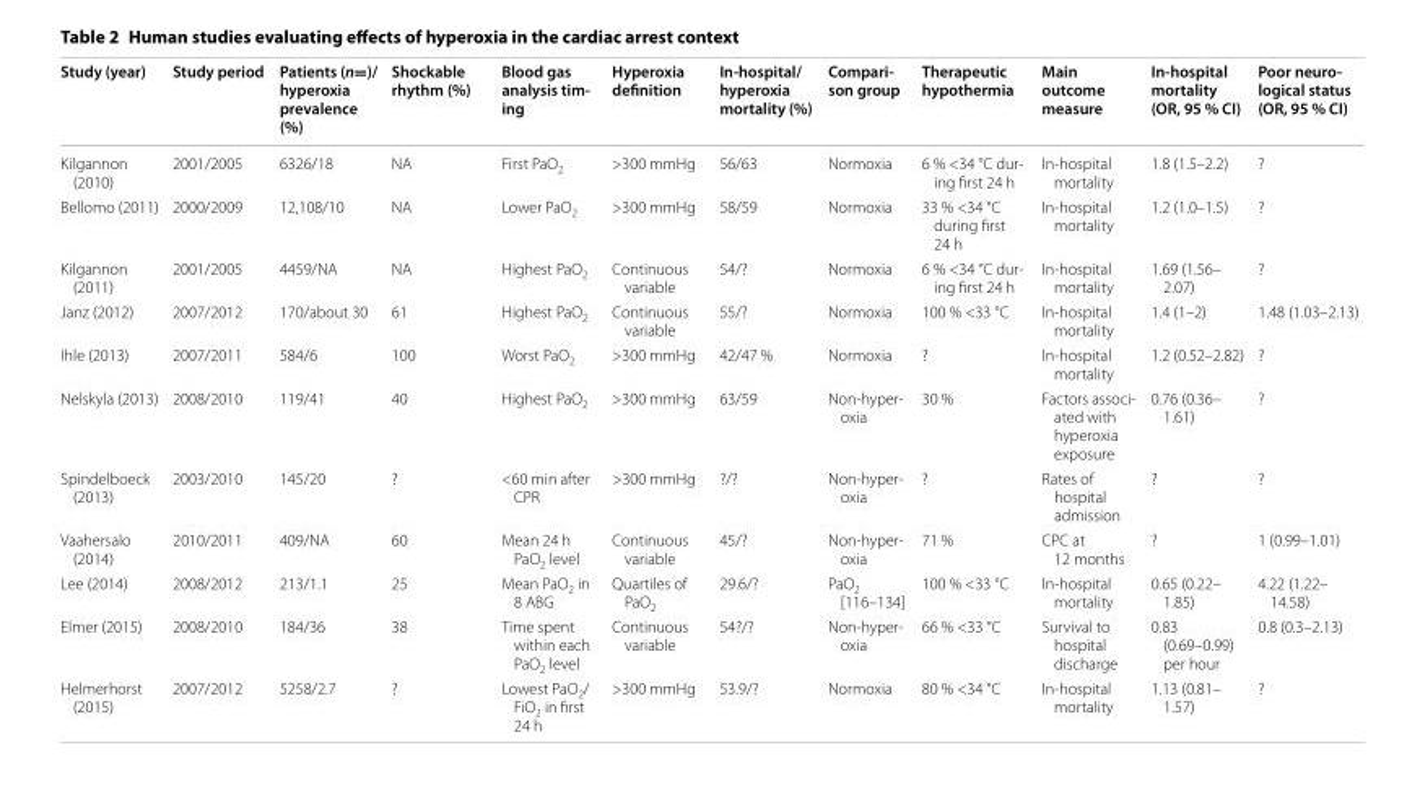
<table><thead><tr><td>Study (year)</td><td>Study period</td><td>Patients (n=)/ hyperoxia prevalence (%)</td><td>Shockable rhythm (%)</td><td>Blood gas analysis tim- ing</td><td>Hyperoxia definition</td><td>In-hospital/ hyperoxia mortality (%)</td><td>Compari- son group</td><td>Therapeutic hypothermia</td><td>Main outcome measure</td><td>In-hospital mortality (OR, 95 % CI)</td><td>Poor neuro- logical status (OR, 95 % CI)</td></tr></thead><tbody><tr><td>Kilgannon (2010)</td><td>2001/2005</td><td>6326/18</td><td>NA</td><td>First PaO<sub>2</sub></td><td>&gt;300 mmHg</td><td>56/63</td><td>Normoxia</td><td>6 % &lt;34 °C dur‑ ing first 24 h</td><td>In‑hospital mortality</td><td>1.8 (1.5–2.2)</td><td>?</td></tr><tr><td>Bellomo (2011)</td><td>2000/2009</td><td>12,108/10</td><td>NA</td><td>Lower PaO<sub>2</sub></td><td>&gt;300 mmHg</td><td>58/59</td><td>Normoxia</td><td>33 % &lt;34 °C during first 24 h</td><td>In‑hospital mortality</td><td>1.2 (1.0–1.5)</td><td>?</td></tr><tr><td>Kilgannon (2011)</td><td>2001/2005</td><td>4459/NA</td><td>NA</td><td>Highest PaO<sub>2</sub></td><td>Continuous variable</td><td>54/?</td><td>Normoxia</td><td>6 % &lt;34 °C dur‑ ing first 24 h</td><td>In‑hospital mortality</td><td>1.69 (1.56– 2.07)</td><td>?</td></tr><tr><td>Janz (2012)</td><td>2007/2012</td><td>170/about 30</td><td>61</td><td>Highest PaO<sub>2</sub></td><td>Continuous variable</td><td>55/?</td><td>Normoxia</td><td>100 % &lt;33 °C</td><td>In‑hospital mortality</td><td>1.4 (1–2)</td><td>1.48 (1.03–2.13)</td></tr><tr><td>Ihle (2013)</td><td>2007/2011</td><td>584/6</td><td>100</td><td>Worst PaO<sub>2</sub></td><td>&gt;300 mmHg</td><td>42/47 %</td><td>Normoxia</td><td>?</td><td>In‑hospital mortality</td><td>1.2 (0.52–2.82)</td><td>?</td></tr><tr><td>Nelskyla (2013)</td><td>2008/2010</td><td>119/41</td><td>40</td><td>Highest PaO<sub>2</sub></td><td>&gt;300 mmHg</td><td>63/59</td><td>Non‑hyper‑ oxia</td><td>30 %</td><td>Factors associ‑ ated with hyperoxia exposure</td><td>0.76 (0.36– 1.61)</td><td>?</td></tr><tr><td>Spindelboeck (2013)</td><td>2003/2010</td><td>145/20</td><td>?</td><td>&lt;60 min after CPR</td><td>&gt;300 mmHg</td><td>?/?</td><td>Non‑hyper‑ oxia</td><td>?</td><td>Rates of hospital admission</td><td>?</td><td>?</td></tr><tr><td>Vaahersalo (2014)</td><td>2010/2011</td><td>409/NA</td><td>60</td><td>Mean 24 h PaO<sub>2</sub> level</td><td>Continuous variable</td><td>45/?</td><td>Non‑hyper‑ oxia</td><td>71 %</td><td>CPC at 12 months</td><td>?</td><td>1 (0.99–1.01)</td></tr><tr><td>Lee (2014)</td><td>2008/2012</td><td>213/1.1</td><td>25</td><td>Mean PaO<sub>2</sub> in 8 ABG</td><td>Quartiles of PaO<sub>2</sub></td><td>29.6/?</td><td>PaO<sub>2</sub> [116–134]</td><td>100 % &lt;33 °C</td><td>In‑hospital mortality</td><td>0.65 (0.22– 1.85)</td><td>4.22 (1.22– 14.58)</td></tr><tr><td>Elmer (2015)</td><td>2008/2010</td><td>184/36</td><td>38</td><td>Time spent within each PaO<sub>2</sub> level</td><td>Continuous variable</td><td>54?/?</td><td>Non‑hyper‑ oxia</td><td>66 % &lt;33 °C</td><td>Survival to hospital discharge</td><td>0.83 (0.69–0.99) per hour</td><td>0.8 (0.3–2.13)</td></tr><tr><td>Helmerhorst (2015)</td><td>2007/2012</td><td>5258/2.7</td><td>?</td><td>Lowest PaO<sub>2</sub>/ FiO<sub>2</sub> in first 24 h</td><td>&gt;300 mmHg</td><td>53.9/?</td><td>Normoxia</td><td>80 % &lt;34 °C</td><td>In‑hospital mortality</td><td>1.13 (0.81– 1.57)</td><td>?</td></tr></tbody></table>